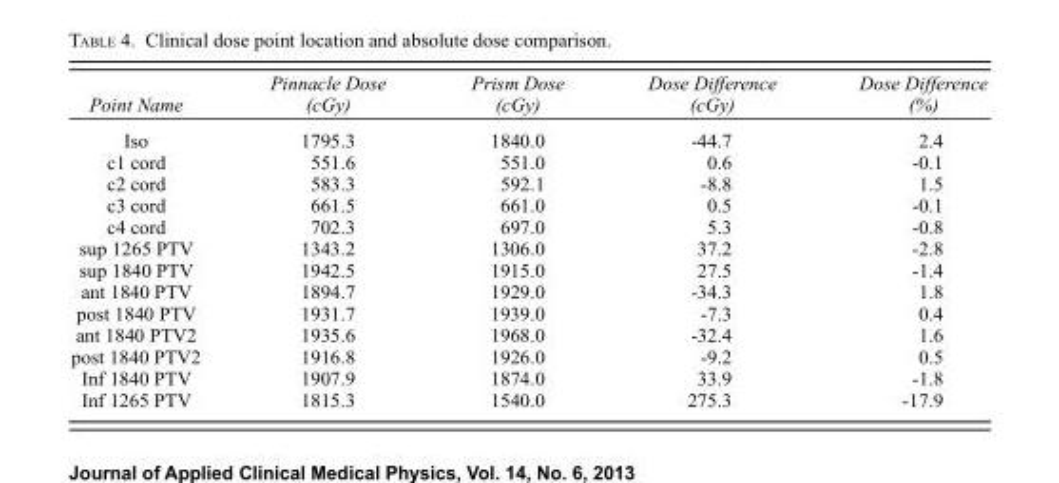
<table><thead><tr><td>Point Name</td><td>Pinnacle Dose (cGy)</td><td>Prism Dose (cGy)</td><td>Dose Difference (cGy)</td><td>Dose Difference (%)</td></tr></thead><tbody><tr><td>Iso</td><td>1795.3</td><td>1840.0</td><td>-44.7</td><td>2.4</td></tr><tr><td>c1 cord</td><td>551.6</td><td>551.0</td><td>0.6</td><td>-0.1</td></tr><tr><td>c2 cord</td><td>583.3</td><td>592.1</td><td>-8.8</td><td>1.5</td></tr><tr><td>c3 cord</td><td>661.5</td><td>661.0</td><td>0.5</td><td>-0.1</td></tr><tr><td>c4 cord</td><td>702.3</td><td>697.0</td><td>5.3</td><td>-0.8</td></tr><tr><td>sup 1265 PTV</td><td>1343.2</td><td>1306.0</td><td>37.2</td><td>-2.8</td></tr><tr><td>sup 1840 PTV</td><td>1942.5</td><td>1915.0</td><td>27.5</td><td>-1.4</td></tr><tr><td>ant 1840 PTV</td><td>1894.7</td><td>1929.0</td><td>-34.3</td><td>1.8</td></tr><tr><td>post 1840 PTV</td><td>1931.7</td><td>1939.0</td><td>-7.3</td><td>0.4</td></tr><tr><td>ant 1840 PTV2</td><td>1935.6</td><td>1968.0</td><td>-32.4</td><td>1.6</td></tr><tr><td>post 1840 PTV2</td><td>1916.8</td><td>1926.0</td><td>-9.2</td><td>0.5</td></tr><tr><td>Inf 1840 PTV</td><td>1907.9</td><td>1874.0</td><td>33.9</td><td>-1.8</td></tr><tr><td>Inf 1265 PTV</td><td>1815.3</td><td>1540.0</td><td>275.3</td><td>-17.9</td></tr></tbody></table>